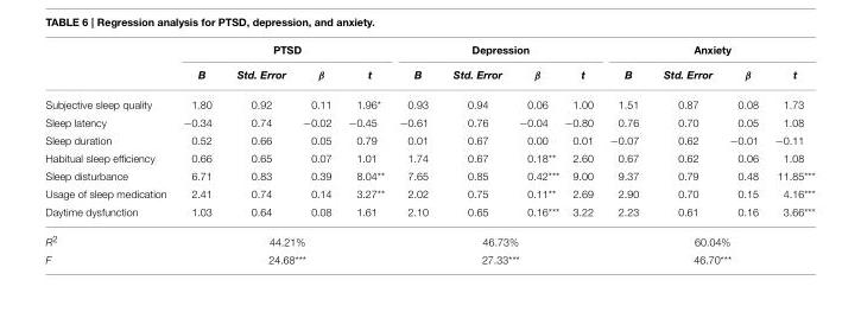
<table><thead><tr><td rowspan="2"></td><td colspan="4">PTSD</td><td colspan="4">Depression</td><td colspan="4">Anxiety</td></tr><tr><td>B</td><td>Std. Error</td><td>β</td><td>t</td><td>B</td><td>Std. Error</td><td>β</td><td>t</td><td>B</td><td>Std. Error</td><td>β</td><td>t</td></tr></thead><tbody><tr><td>Subjective sleep quality</td><td>1.80</td><td>0.92</td><td>0.11</td><td>1.96*</td><td>0.93</td><td>0.94</td><td>0.06</td><td>1.00</td><td>1.51</td><td>0.87</td><td>0.08</td><td>1.73</td></tr><tr><td>Sleep latency</td><td>−0.34</td><td>0.74</td><td>−0.02</td><td>−0.45</td><td>−0.61</td><td>0.76</td><td>−0.04</td><td>−0.80</td><td>0.76</td><td>0.70</td><td>0.05</td><td>1.08</td></tr><tr><td>Sleep duration</td><td>0.52</td><td>0.66</td><td>0.05</td><td>0.79</td><td>0.01</td><td>0.67</td><td>0.00</td><td>0.01</td><td>−0.07</td><td>0.62</td><td>−0.01</td><td>−0.11</td></tr><tr><td>Habitual sleep efficiency</td><td>0.66</td><td>0.65</td><td>0.07</td><td>1.01</td><td>1.74</td><td>0.67</td><td>0.18**</td><td>2.60</td><td>0.67</td><td>0.62</td><td>0.06</td><td>1.08</td></tr><tr><td>Sleep disturbance</td><td>6.71</td><td>0.83</td><td>0.39</td><td>8.04**</td><td>7.65</td><td>0.85</td><td>0.42***</td><td>9.00</td><td>9.37</td><td>0.79</td><td>0.48</td><td>11.85***</td></tr><tr><td>Usage of sleep medication</td><td>2.41</td><td>0.74</td><td>0.14</td><td>3.27**</td><td>2.02</td><td>0.75</td><td>0.11**</td><td>2.69</td><td>2.90</td><td>0.70</td><td>0.15</td><td>4.16***</td></tr><tr><td>Daytime dysfunction</td><td>1.03</td><td>0.64</td><td>0.08</td><td>1.61</td><td>2.10</td><td>0.65</td><td>0.16***</td><td>3.22</td><td>2.23</td><td>0.61</td><td>0.16</td><td>3.66***</td></tr><tr><td>R<sup>2</sup></td><td colspan="4">44.21%</td><td colspan="4">46.73%</td><td colspan="4">60.04%</td></tr><tr><td>F</td><td colspan="4">24.68***</td><td colspan="4">27.33***</td><td colspan="4">46.70***</td></tr></tbody></table>